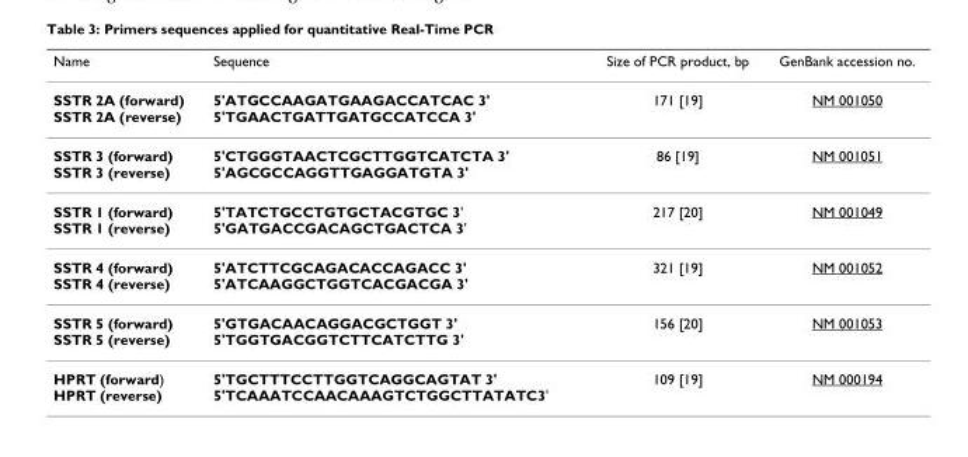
<table><thead><tr><td>Name</td><td>Sequence</td><td>Size of PCR product, bp</td><td>GenBank accession no.</td></tr></thead><tbody><tr><td>SSTR 2A (forward) SSTR 2A (reverse)</td><td>5&#x27;ATGCCAAGATGAAGACCATCAC 3&#x27; 5&#x27;TGAACTGATTGATGCCATCCA 3&#x27;</td><td>171 [19]</td><td>NM 001050</td></tr><tr><td>SSTR 3 (forward) SSTR 3 (reverse)</td><td>5&#x27;CTGGGTAACTCGCTTGGTCATCTA 3&#x27; 5&#x27;AGCGCCAGGTTGAGGATGTA 3&#x27;</td><td>86 [19]</td><td>NM 001051</td></tr><tr><td>SSTR 1 (forward) SSTR 1 (reverse)</td><td>5&#x27;TATCTGCCTGTGCTACGTGC 3&#x27; 5&#x27;GATGACCGACAGCTGACTCA 3&#x27;</td><td>217 [20]</td><td>NM 001049</td></tr><tr><td>SSTR 4 (forward) SSTR 4 (reverse)</td><td>5&#x27;ATCTTCGCAGACACCAGACC 3&#x27; 5&#x27;ATCAAGGCTGGTCACGACGA 3&#x27;</td><td>321 [19]</td><td>NM 001052</td></tr><tr><td>SSTR 5 (forward) SSTR 5 (reverse)</td><td>5&#x27;GTGACAACAGGACGCTGGT 3&#x27; 5&#x27;TGGTGACGGTCTTCATCTTG 3&#x27;</td><td>156 [20]</td><td>NM 001053</td></tr><tr><td>HPRT (forward) HPRT (reverse)</td><td>5&#x27;TGCTTTCCTTGGTCAGGCAGTAT 3&#x27; 5&#x27;TCAAATCCAACAAAGTCTGGCTTATATC3&#x27;</td><td>109 [19]</td><td>NM 000194</td></tr></tbody></table>